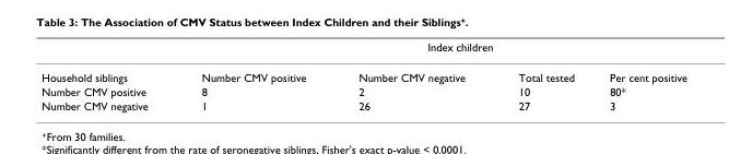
<table><thead><tr><td rowspan="2">Household siblings</td><td colspan="4">Index children</td></tr><tr><td>Number CMV positive</td><td>Number CMV negative</td><td>Total tested</td><td>Per cent positive</td></tr></thead><tbody><tr><td>Number CMV positive</td><td>8</td><td>2</td><td>10</td><td>80*</td></tr><tr><td>Number CMV negative</td><td>1</td><td>26</td><td>27</td><td>3</td></tr></tbody></table>